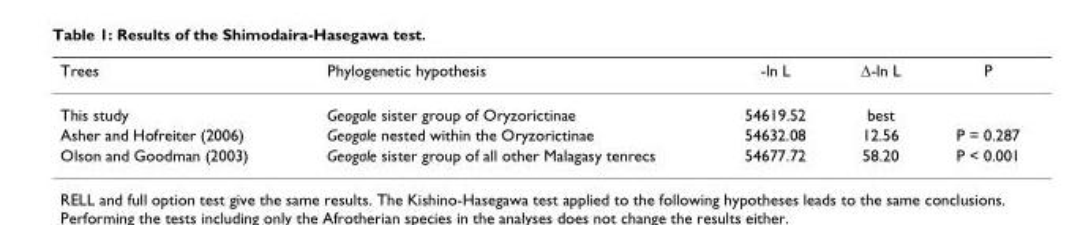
<table><thead><tr><td>Trees</td><td>Phylogenetic hypothesis</td><td>-ln L</td><td>Δ-ln L</td><td>P</td></tr></thead><tbody><tr><td>This study</td><td>Geogale sister group of Oryzorictinae</td><td>54619.52</td><td>best</td><td></td></tr><tr><td>Asher and Hofreiter (2006)</td><td>Geogale nested within the Oryzorictinae</td><td>54632.08</td><td>12.56</td><td>P = 0.287</td></tr><tr><td>Olson and Goodman (2003)</td><td>Geogale sister group of all other Malagasy tenrecs</td><td>54677.72</td><td>58.20</td><td>P &lt; 0.001</td></tr></tbody></table>